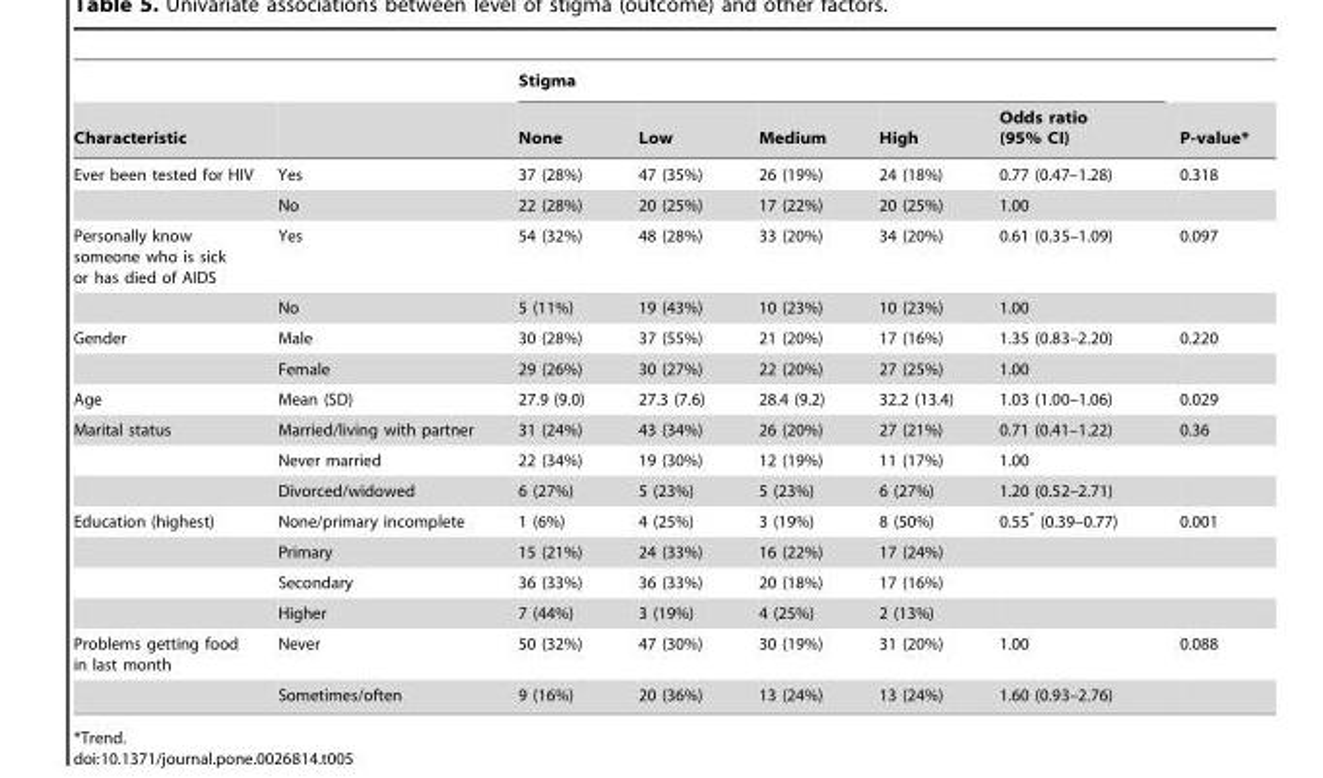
<table><thead><tr><td rowspan="2">Characteristic</td><td rowspan="2"></td><td colspan="5">Stigma</td><td rowspan="2">P-value*</td></tr><tr><td>None</td><td>Low</td><td>Medium</td><td>High</td><td>Odds ratio (95% CI)</td></tr></thead><tbody><tr><td rowspan="2">Ever been tested for HIV</td><td>Yes</td><td>37 (28%)</td><td>47 (35%)</td><td>26 (19%)</td><td>24 (18%)</td><td>0.77 (0.47–1.28)</td><td>0.318</td></tr><tr><td>No</td><td>22 (28%)</td><td>20 (25%)</td><td>17 (22%)</td><td>20 (25%)</td><td>1.00</td><td></td></tr><tr><td rowspan="2">Personally know someone who is sick or has died of AIDS</td><td>Yes</td><td>54 (32%)</td><td>48 (28%)</td><td>33 (20%)</td><td>34 (20%)</td><td>0.61 (0.35–1.09)</td><td>0.097</td></tr><tr><td>No</td><td>5 (11%)</td><td>19 (43%)</td><td>10 (23%)</td><td>10 (23%)</td><td>1.00</td><td></td></tr><tr><td rowspan="2">Gender</td><td>Male</td><td>30 (28%)</td><td>37 (55%)</td><td>21 (20%)</td><td>17 (16%)</td><td>1.35 (0.83–2.20)</td><td>0.220</td></tr><tr><td>Female</td><td>29 (26%)</td><td>30 (27%)</td><td>22 (20%)</td><td>27 (25%)</td><td>1.00</td><td></td></tr><tr><td>Age</td><td>Mean (SD)</td><td>27.9 (9.0)</td><td>27.3 (7.6)</td><td>28.4 (9.2)</td><td>32.2 (13.4)</td><td>1.03 (1.00–1.06)</td><td>0.029</td></tr><tr><td rowspan="3">Marital status</td><td>Married/living with partner</td><td>31 (24%)</td><td>43 (34%)</td><td>26 (20%)</td><td>27 (21%)</td><td>0.71 (0.41–1.22)</td><td>0.36</td></tr><tr><td>Never married</td><td>22 (34%)</td><td>19 (30%)</td><td>12 (19%)</td><td>11 (17%)</td><td>1.00</td><td></td></tr><tr><td>Divorced/widowed</td><td>6 (27%)</td><td>5 (23%)</td><td>5 (23%)</td><td>6 (27%)</td><td>1.20 (0.52–2.71)</td><td></td></tr><tr><td rowspan="4">Education (highest)</td><td>None/primary incomplete</td><td>1 (6%)</td><td>4 (25%)</td><td>3 (19%)</td><td>8 (50%)</td><td>0.55* (0.39–0.77)</td><td>0.001</td></tr><tr><td>Primary</td><td>15 (21%)</td><td>24 (33%)</td><td>16 (22%)</td><td>17 (24%)</td><td></td><td></td></tr><tr><td>Secondary</td><td>36 (33%)</td><td>36 (33%)</td><td>20 (18%)</td><td>17 (16%)</td><td></td><td></td></tr><tr><td>Higher</td><td>7 (44%)</td><td>3 (19%)</td><td>4 (25%)</td><td>2 (13%)</td><td></td><td></td></tr><tr><td rowspan="2">Problems getting food in last month</td><td>Never</td><td>50 (32%)</td><td>47 (30%)</td><td>30 (19%)</td><td>31 (20%)</td><td>1.00</td><td>0.088</td></tr><tr><td>Sometimes/often</td><td>9 (16%)</td><td>20 (36%)</td><td>13 (24%)</td><td>13 (24%)</td><td>1.60 (0.93–2.76)</td><td></td></tr></tbody></table>